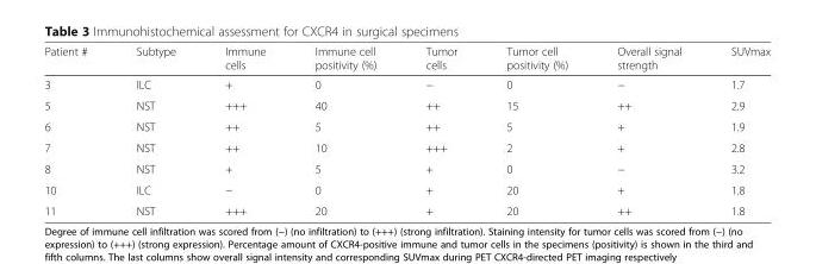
<table><thead><tr><td>Patient #</td><td>Subtype</td><td>Immune cells</td><td>Immune cell positivity (%)</td><td>Tumor cells</td><td>Tumor cell positivity (%)</td><td>Overall signal strength</td><td>SUVmax</td></tr></thead><tbody><tr><td>3</td><td>ILC</td><td>+</td><td>0</td><td>−</td><td>0</td><td>−</td><td>1.7</td></tr><tr><td>5</td><td>NST</td><td>+++</td><td>40</td><td>++</td><td>15</td><td>++</td><td>2.9</td></tr><tr><td>6</td><td>NST</td><td>++</td><td>5</td><td>++</td><td>5</td><td>+</td><td>1.9</td></tr><tr><td>7</td><td>NST</td><td>++</td><td>10</td><td>+++</td><td>2</td><td>+</td><td>2.8</td></tr><tr><td>8</td><td>NST</td><td>+</td><td>5</td><td>+</td><td>0</td><td>−</td><td>3.2</td></tr><tr><td>10</td><td>ILC</td><td>−</td><td>0</td><td>+</td><td>20</td><td>+</td><td>1.8</td></tr><tr><td>11</td><td>NST</td><td>+++</td><td>20</td><td>+</td><td>20</td><td>++</td><td>1.8</td></tr></tbody></table>